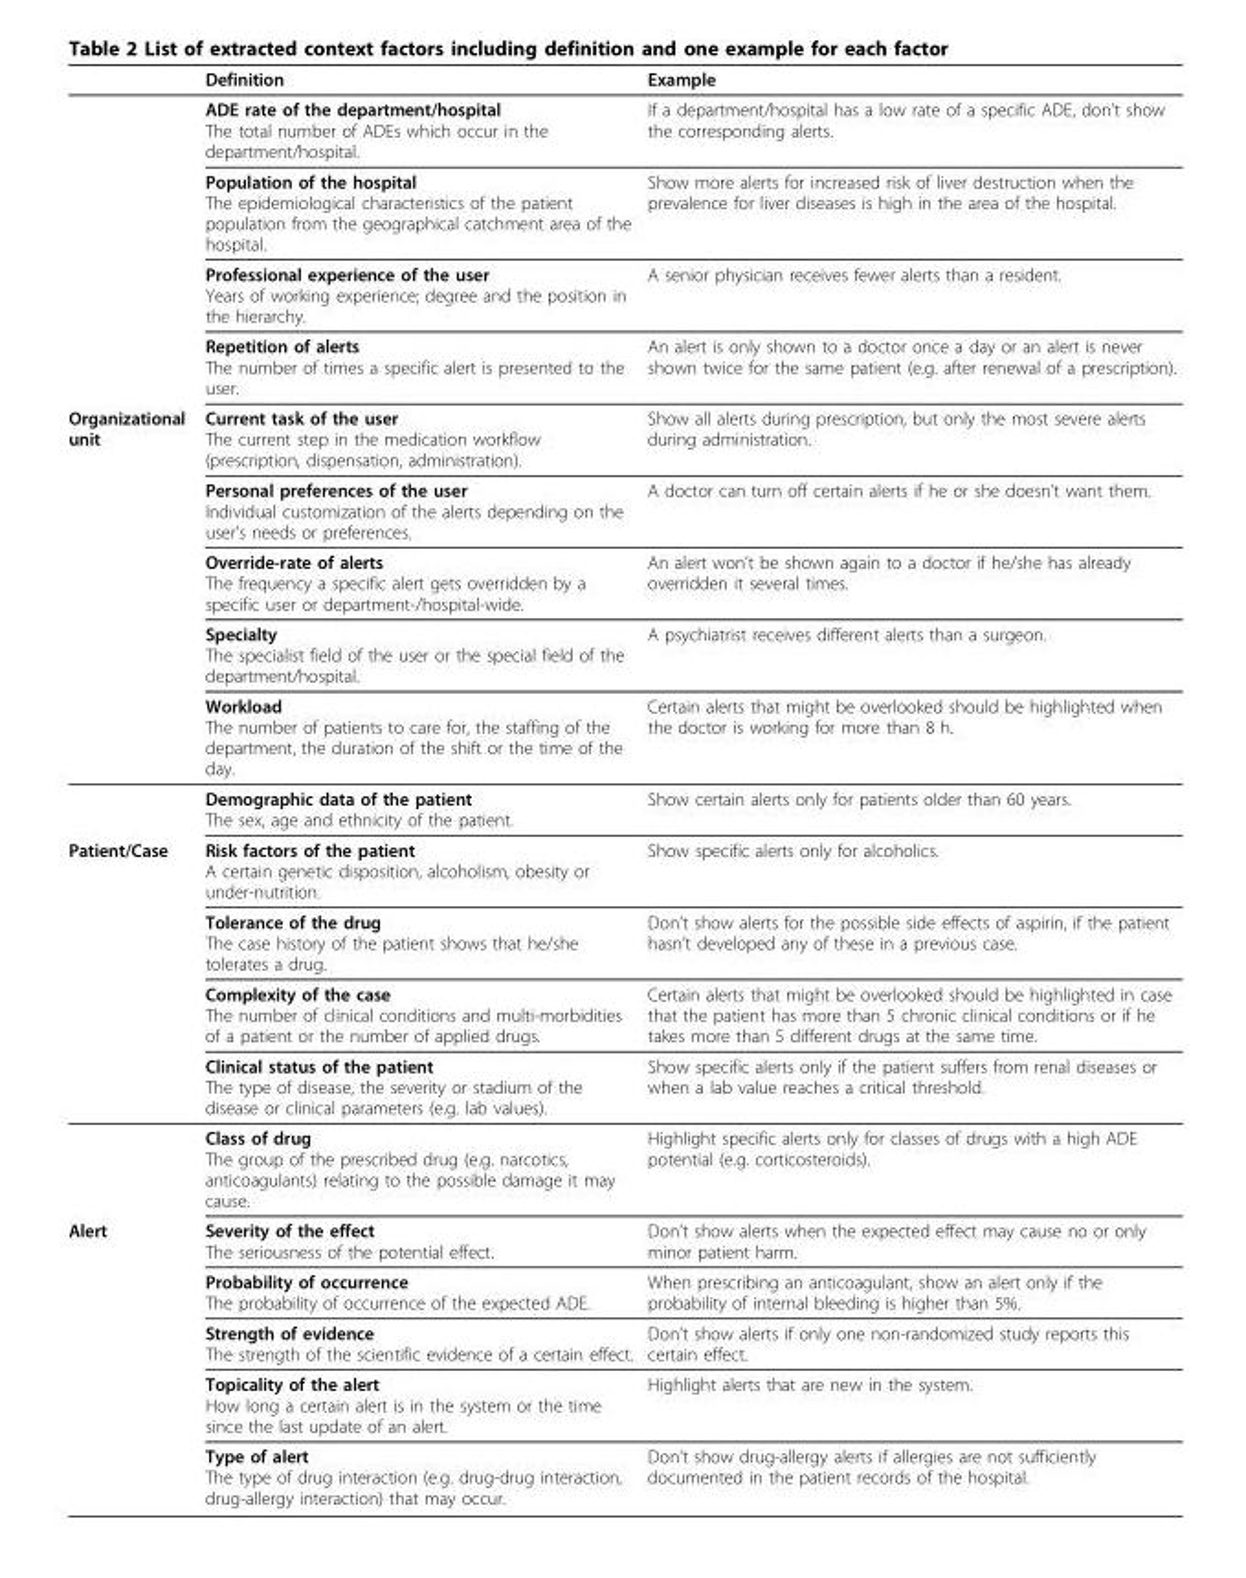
<table><thead><tr><td></td><td>Definition</td><td>Example</td></tr></thead><tbody><tr><td></td><td>ADE rate of the department/hospital The total number of ADEs which occur in the department/hospital.</td><td>If a department/hospital has a low rate of a specific ADE, don’t show the corresponding alerts.</td></tr><tr><td></td><td>Population of the hospital The epidemiological characteristics of the patient population from the geographical catchment area of the hospital.</td><td>Show more alerts for increased risk of liver destruction when the prevalence for liver diseases is high in the area of the hospital.</td></tr><tr><td></td><td>Professional experience of the user Years of working experience; degree and the position in the hierarchy.</td><td>A senior physician receives fewer alerts than a resident.</td></tr><tr><td></td><td>Repetition of alerts The number of times a specific alert is presented to the user.</td><td>An alert is only shown to a doctor once a day or an alert is never shown twice for the same patient (e.g. after renewal of a prescription).</td></tr><tr><td rowspan="6">Organizational unit</td><td>Current task of the user The current step in the medication workflow (prescription, dispensation, administration).</td><td>Show all alerts during prescription, but only the most severe alerts during administration.</td></tr><tr><td>Personal preferences of the user Individual customization of the alerts depending on the user’s needs or preferences.</td><td>A doctor can turn off certain alerts if he or she doesn’t want them.</td></tr><tr><td>Override-rate of alerts The frequency a specific alert gets overridden by a specific user or department-/hospital-wide.</td><td>An alert won’t be shown again to a doctor if he/she has already overridden it several times.</td></tr><tr><td>Specialty The specialist field of the user or the special field of the department/hospital.</td><td>A psychiatrist receives different alerts than a surgeon.</td></tr><tr><td>Workload The number of patients to care for, the staffing of the department, the duration of the shift or the time of the day.</td><td>Certain alerts that might be overlooked should be highlighted when the doctor is working for more than 8 h.</td></tr><tr><td>Demographic data of the patient The sex, age and ethnicity of the patient.</td><td>Show certain alerts only for patients older than 60 years.</td></tr><tr><td rowspan="5">Patient/Case</td><td>Risk factors of the patient A certain genetic disposition, alcoholism, obesity or under-nutrition.</td><td>Show specific alerts only for alcoholics.</td></tr><tr><td>Tolerance of the drug The case history of the patient shows that he/she tolerates a drug.</td><td>Don’t show alerts for the possible side effects of aspirin, if the patient hasn’t developed any of these in a previous case.</td></tr><tr><td>Complexity of the case The number of clinical conditions and multi-morbidities of a patient or the number of applied drugs.</td><td>Certain alerts that might be overlooked should be highlighted in case that the patient has more than 5 chronic clinical conditions or if he takes more than 5 different drugs at the same time.</td></tr><tr><td>Clinical status of the patient The type of disease, the severity or stadium of the disease or clinical parameters (e.g. lab values).</td><td>Show specific alerts only if the patient suffers from renal diseases or when a lab value reaches a critical threshold.</td></tr><tr><td>Class of drug The group of the prescribed drug (e.g. narcotics, anticoagulants) relating to the possible damage it may cause.</td><td>Highlight specific alerts only for classes of drugs with a high ADE potential (e.g. corticosteroids).</td></tr><tr><td rowspan="5">Alert</td><td>Severity of the effect The seriousness of the potential effect.</td><td>Don’t show alerts when the expected effect may cause no or only minor patient harm.</td></tr><tr><td>Probability of occurrence The probability of occurrence of the expected ADE.</td><td>When prescribing an anticoagulant, show an alert only if the probability of internal bleeding is higher than 5%.</td></tr><tr><td>Strength of evidence The strength of the scientific evidence of a certain effect.</td><td>Don’t show alerts if only one non-randomized study reports this certain effect.</td></tr><tr><td>Topicality of the alert How long a certain alert is in the system or the time since the last update of an alert.</td><td>Highlight alerts that are new in the system.</td></tr><tr><td>Type of alert The type of drug interaction (e.g. drug-drug interaction, drug-allergy interaction) that may occur.</td><td>Don’t show drug-allergy alerts if allergies are not sufficiently documented in the patient records of the hospital.</td></tr></tbody></table>